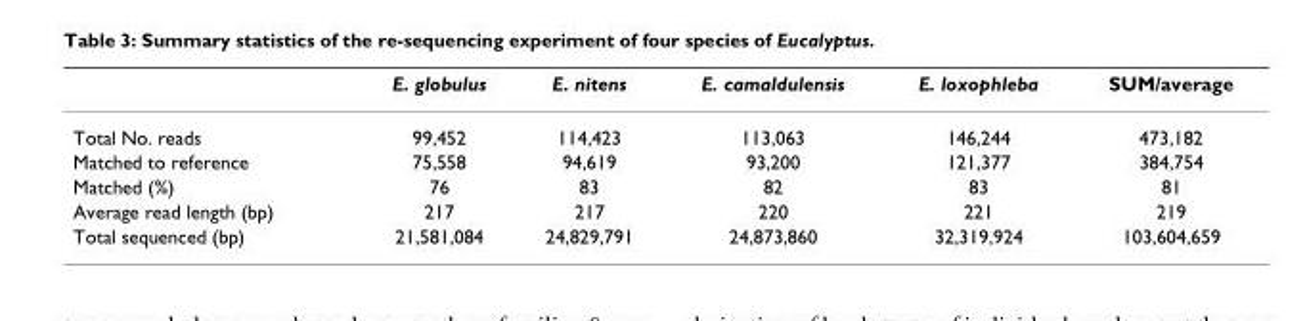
<table><thead><tr><td></td><td>E. globulus</td><td>E. nitens</td><td>E. camaldulensis</td><td>E. loxophleba</td><td>SUM/average</td></tr></thead><tbody><tr><td>Total No. reads</td><td>99,452</td><td>114,423</td><td>113,063</td><td>146,244</td><td>473,182</td></tr><tr><td>Matched to reference</td><td>75,558</td><td>94,619</td><td>93,200</td><td>121,377</td><td>384,754</td></tr><tr><td>Matched (%)</td><td>76</td><td>83</td><td>82</td><td>83</td><td>81</td></tr><tr><td>Average read length (bp)</td><td>217</td><td>217</td><td>220</td><td>221</td><td>219</td></tr><tr><td>Total sequenced (bp)</td><td>21,581,084</td><td>24,829,791</td><td>24,873,860</td><td>32,319,924</td><td>103,604,659</td></tr></tbody></table>